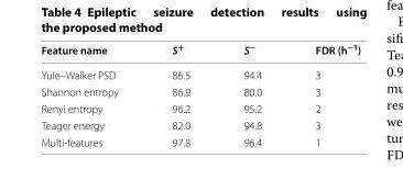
<table><thead><tr><td>Feature name</td><td>S<sup>+</sup></td><td>S<sup>−</sup></td><td>FDR (h<sup>−1</sup>)</td></tr></thead><tbody><tr><td>Yule–Walker PSD</td><td>86.5</td><td>94.4</td><td>3</td></tr><tr><td>Shannon entropy</td><td>86.9</td><td>80.0</td><td>3</td></tr><tr><td>Renyi entropy</td><td>96.2</td><td>95.2</td><td>2</td></tr><tr><td>Teager energy</td><td>82.0</td><td>94.8</td><td>3</td></tr><tr><td>Multi-features</td><td>97.8</td><td>96.4</td><td>1</td></tr></tbody></table>